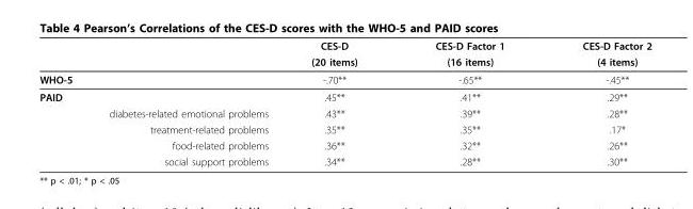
<table><thead><tr><td rowspan="2"></td><td rowspan="2">CES-D (20 items)</td><td rowspan="2">CES-D Factor 1 (16 items)</td><td rowspan="2">CES-D Factor 2 (4 items)</td></tr><tr></tr></thead><tbody><tr><td>WHO-5</td><td>-.70**</td><td>-.65**</td><td>-.45**</td></tr><tr><td>PAID</td><td>.45**</td><td>.41**</td><td>.29**</td></tr><tr><td>diabetes-related emotional problems</td><td>.43**</td><td>.39**</td><td>.28**</td></tr><tr><td>treatment-related problems</td><td>.35**</td><td>.35**</td><td>.17*</td></tr><tr><td>food-related problems</td><td>.36**</td><td>.32**</td><td>.26**</td></tr><tr><td>social support problems</td><td>.34**</td><td>.28**</td><td>.30**</td></tr></tbody></table>